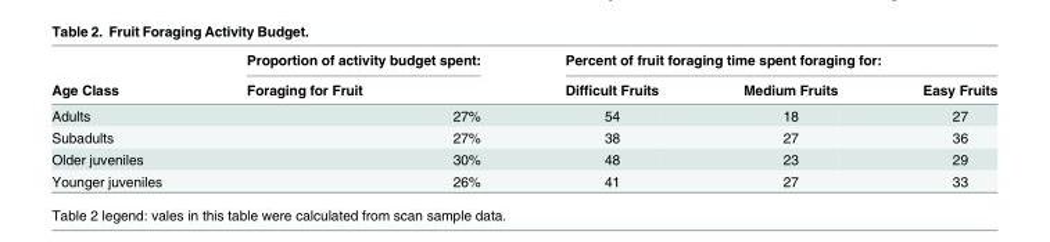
<table><thead><tr><td rowspan="2">Age Class</td><td rowspan="2">Proportion of activity budget spent: Foraging for Fruit</td><td colspan="3">Percent of fruit foraging time spent foraging for:</td></tr><tr><td>Difficult Fruits</td><td>Medium Fruits</td><td>Easy Fruits</td></tr></thead><tbody><tr><td>Adults</td><td>27%</td><td>54</td><td>18</td><td>27</td></tr><tr><td>Subadults</td><td>27%</td><td>38</td><td>27</td><td>36</td></tr><tr><td>Older juveniles</td><td>30%</td><td>48</td><td>23</td><td>29</td></tr><tr><td>Younger juveniles</td><td>26%</td><td>41</td><td>27</td><td>33</td></tr></tbody></table>